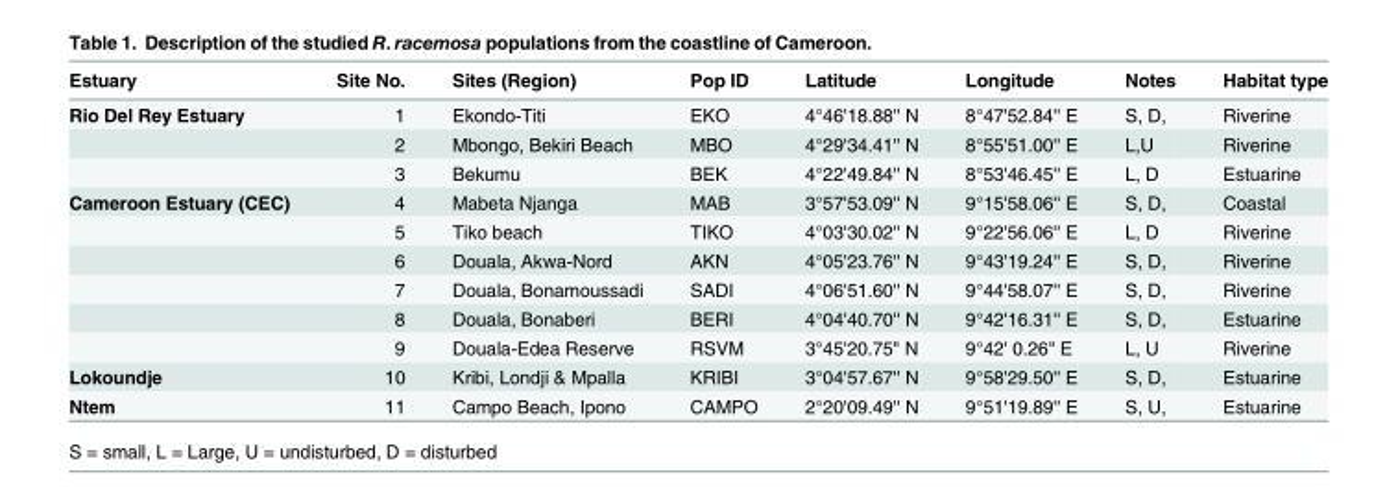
<table><thead><tr><td>Estuary</td><td>Site No.</td><td>Sites (Region)</td><td>Pop ID</td><td>Latitude</td><td>Longitude</td><td>Notes</td><td>Habitat type</td></tr></thead><tbody><tr><td rowspan="3">Rio Del Rey Estuary</td><td>1</td><td>Ekondo-Titi</td><td>EKO</td><td>4°46&#x27;18.88&#x27;&#x27; N</td><td>8°47&#x27;52.84&#x27;&#x27; E</td><td>S, D,</td><td>Riverine</td></tr><tr><td>2</td><td>Mbongo, Bekiri Beach</td><td>MBO</td><td>4°29&#x27;34.41&#x27;&#x27; N</td><td>8°55&#x27;51.00&#x27;&#x27; E</td><td>L,U</td><td>Riverine</td></tr><tr><td>3</td><td>Bekumu</td><td>BEK</td><td>4°22&#x27;49.84&#x27;&#x27; N</td><td>8°53&#x27;46.45&#x27;&#x27; E</td><td>L, D</td><td>Estuarine</td></tr><tr><td rowspan="6">Cameroon Estuary (CEC)</td><td>4</td><td>Mabeta Njanga</td><td>MAB</td><td>3°57&#x27;53.09&#x27;&#x27; N</td><td>9°15&#x27;58.06&#x27;&#x27; E</td><td>S, D,</td><td>Coastal</td></tr><tr><td>5</td><td>Tiko beach</td><td>TIKO</td><td>4°03&#x27;30.02&#x27;&#x27; N</td><td>9°22&#x27;56.06&#x27;&#x27; E</td><td>L, D</td><td>Riverine</td></tr><tr><td>6</td><td>Douala, Akwa-Nord</td><td>AKN</td><td>4°05&#x27;23.76&#x27;&#x27; N</td><td>9°43&#x27;19.24&#x27;&#x27; E</td><td>S, D,</td><td>Riverine</td></tr><tr><td>7</td><td>Douala, Bonamoussadi</td><td>SADI</td><td>4°06&#x27;51.60&#x27;&#x27; N</td><td>9°44&#x27;58.07&#x27;&#x27; E</td><td>S, D,</td><td>Riverine</td></tr><tr><td>8</td><td>Douala, Bonaberi</td><td>BERI</td><td>4°04&#x27;40.70&#x27;&#x27; N</td><td>9°42&#x27;16.31&#x27;&#x27; E</td><td>S, D,</td><td>Estuarine</td></tr><tr><td>9</td><td>Douala-Edea Reserve</td><td>RSVM</td><td>3°45&#x27;20.75&quot; N</td><td>9°42&#x27; 0.26&quot; E</td><td>L, U</td><td>Riverine</td></tr><tr><td>Lokoundje</td><td>10</td><td>Kribi, Londji &amp; Mpalla</td><td>KRIBI</td><td>3°04&#x27;57.67&#x27;&#x27; N</td><td>9°58&#x27;29.50&#x27;&#x27; E</td><td>S, D,</td><td>Estuarine</td></tr><tr><td>Ntem</td><td>11</td><td>Campo Beach, Ipono</td><td>CAMPO</td><td>2°20&#x27;09.49&#x27;&#x27; N</td><td>9°51&#x27;19.89&#x27;&#x27; E</td><td>S, U,</td><td>Estuarine</td></tr></tbody></table>